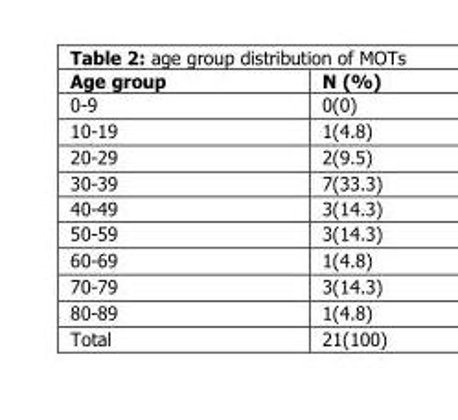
<table><thead><tr><td>Age group</td><td>N (%)</td></tr></thead><tbody><tr><td>0-9</td><td>0(0)</td></tr><tr><td>10-19</td><td>1(4.8)</td></tr><tr><td>20-29</td><td>2(9.5)</td></tr><tr><td>30-39</td><td>7(33.3)</td></tr><tr><td>40-49</td><td>3(14.3)</td></tr><tr><td>50-59</td><td>3(14.3)</td></tr><tr><td>60-69</td><td>1(4.8)</td></tr><tr><td>70-79</td><td>3(14.3)</td></tr><tr><td>80-89</td><td>1(4.8)</td></tr><tr><td>Total</td><td>21(100)</td></tr></tbody></table>